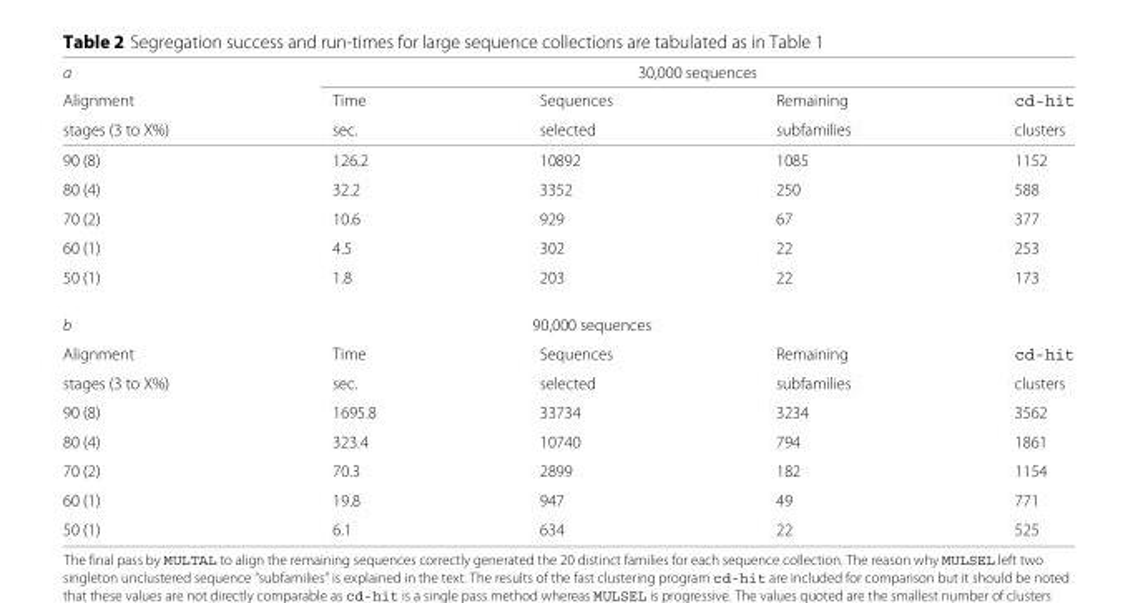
<table><thead><tr><td rowspan="3">a Alignment stages (3 to X%)</td><td colspan="4">30,000 sequences</td></tr><tr><td rowspan="2">Time sec.</td><td rowspan="2">Sequences selected</td><td rowspan="2">Remaining subfamilies</td><td rowspan="2">cd-hit clusters</td></tr><tr></tr></thead><tbody><tr><td>90 (8)</td><td>126.2</td><td>10892</td><td>1085</td><td>1152</td></tr><tr><td>80 (4)</td><td>32.2</td><td>3352</td><td>250</td><td>588</td></tr><tr><td>70 (2)</td><td>10.6</td><td>929</td><td>67</td><td>377</td></tr><tr><td>60 (1)</td><td>4.5</td><td>302</td><td>22</td><td>253</td></tr><tr><td>50 (1)</td><td>1.8</td><td>203</td><td>22</td><td>173</td></tr><tr><td>b</td><td colspan="3">90,000 sequences</td><td></td></tr><tr><td>Alignment</td><td>Time</td><td>Sequences</td><td>Remaining</td><td>cd-hit</td></tr><tr><td>stages (3 to X%)</td><td>sec.</td><td>selected</td><td>subfamilies</td><td>clusters</td></tr><tr><td>90 (8)</td><td>1695.8</td><td>33734</td><td>3234</td><td>3562</td></tr><tr><td>80 (4)</td><td>323.4</td><td>10740</td><td>794</td><td>1861</td></tr><tr><td>70 (2)</td><td>70.3</td><td>2899</td><td>182</td><td>1154</td></tr><tr><td>60 (1)</td><td>19.8</td><td>947</td><td>49</td><td>771</td></tr><tr><td>50 (1)</td><td>6.1</td><td>634</td><td>22</td><td>525</td></tr></tbody></table>